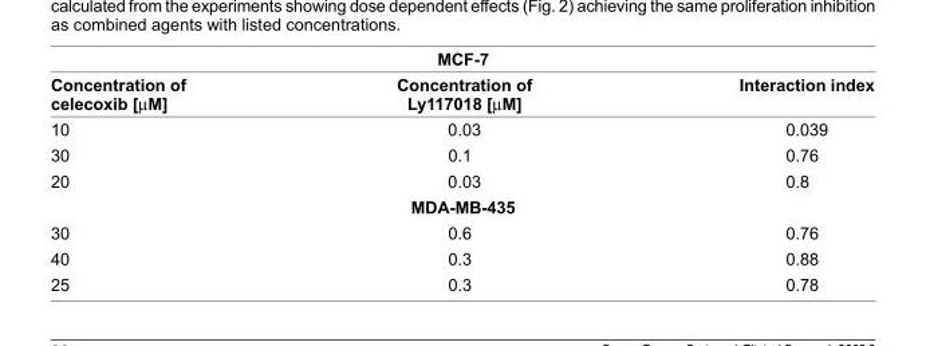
<table><thead><tr><td colspan="3">MCF-7</td></tr><tr><td>Concentration of celecoxib [μM]</td><td>Concentration of Ly117018 [μM]</td><td>Interaction index</td></tr></thead><tbody><tr><td>10</td><td>0.03</td><td>0.039</td></tr><tr><td>30</td><td>0.1</td><td>0.76</td></tr><tr><td rowspan="2">20</td><td>0.03</td><td>0.8</td></tr><tr><td>MDA-MB-435</td><td></td></tr><tr><td>30</td><td>0.6</td><td>0.76</td></tr><tr><td>40</td><td>0.3</td><td>0.88</td></tr><tr><td>25</td><td>0.3</td><td>0.78</td></tr></tbody></table>